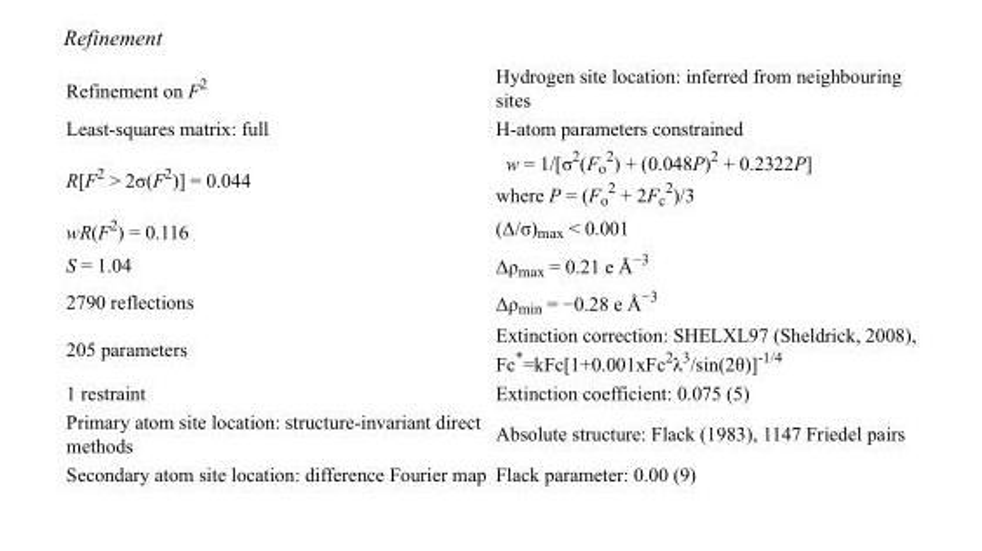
<table><tbody><tr><td>Refinement on F<sup>2</sup></td><td>Hydrogen site location: inferred from neighbouring sites</td></tr><tr><td>Least-squares matrix: full</td><td>H-atom parameters constrained</td></tr><tr><td>R[F<sup>2</sup> &gt; 2σ(F<sup>2</sup>)] = 0.044</td><td>w = 1/[σ<sup>2</sup>(F<sub>o</sub> <sup>2</sup>) + (0.048P)<sup>2</sup> + 0.2322P] where P = (F<sub>o</sub> <sup>2</sup> + 2F<sub>c</sub> <sup>2</sup>)/3</td></tr><tr><td>wR(F<sup>2</sup>) = 0.116</td><td>(Δ/σ)<sub>max</sub> &lt; 0.001</td></tr><tr><td>S = 1.04</td><td>Δρ<sub>max</sub> = 0.21 e Å<sup>−3</sup></td></tr><tr><td>2790 reflections</td><td>Δρ<sub>min</sub> = −0.28 e Å<sup>−3</sup></td></tr><tr><td>205 parameters</td><td>Extinction correction: SHELXL97 (Sheldrick, 2008), Fc*=kFc[1+0.001xFc<sup>2</sup>λ<sup>3</sup>/sin(2θ)]<sup>-1/4</sup></td></tr><tr><td>1 restraint</td><td>Extinction coefficient: 0.075 (5)</td></tr><tr><td>Primary atom site location: structure-invariant direct methods</td><td>Absolute structure: Flack (1983), 1147 Friedel pairs</td></tr><tr><td>Secondary atom site location: difference Fourier map</td><td>Flack parameter: 0.00 (9)</td></tr></tbody></table>